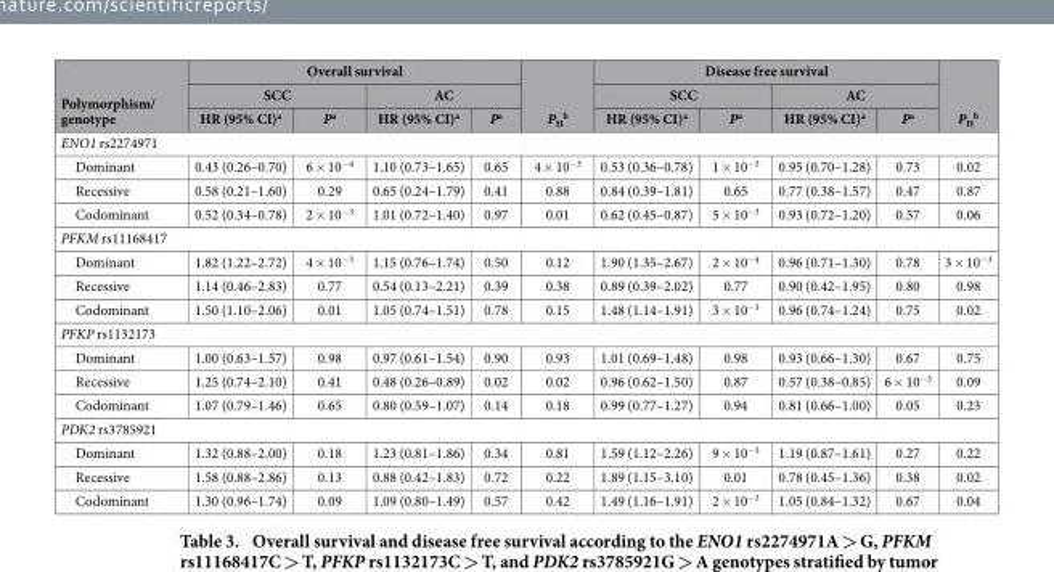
<table><thead><tr><td rowspan="3">Polymorphism/ genotype</td><td colspan="4">Overall survival</td><td rowspan="3">P<sub>H</sub> <sup>b</sup></td><td colspan="4">Disease free survival</td><td rowspan="3">P<sub>H</sub> <sup>b</sup></td></tr><tr><td colspan="2">SCC</td><td colspan="2">AC</td><td colspan="2">SCC</td><td colspan="2">AC</td></tr><tr><td>HR (95% CI)<sup>a</sup></td><td>P<sup>a</sup></td><td>HR (95% CI)<sup>a</sup></td><td>P<sup>a</sup></td><td>HR (95% CI)<sup>a</sup></td><td>P<sup>a</sup></td><td>HR (95% CI)<sup>a</sup></td><td>P<sup>a</sup></td></tr></thead><tbody><tr><td colspan="11">ENO1 rs2274971</td></tr><tr><td>Dominant</td><td>0.43 (0.26–0.70)</td><td>6 × 10<sup>−4</sup></td><td>1.10 (0.73–1.65)</td><td>0.65</td><td>4 × 10<sup>−3</sup></td><td>0.53 (0.36–0.78)</td><td>1 × 10<sup>−3</sup></td><td>0.95 (0.70–1.28)</td><td>0.73</td><td>0.02</td></tr><tr><td>Recessive</td><td>0.58 (0.21–1.60)</td><td>0.29</td><td>0.65 (0.24–1.79)</td><td>0.41</td><td>0.88</td><td>0.84 (0.39–1.81)</td><td>0.65</td><td>0.77 (0.38–1.57)</td><td>0.47</td><td>0.87</td></tr><tr><td>Codominant</td><td>0.52 (0.34–0.78)</td><td>2 × 10<sup>−3</sup></td><td>1.01 (0.72–1.40)</td><td>0.97</td><td>0.01</td><td>0.62 (0.45–0.87)</td><td>5 × 10<sup>−3</sup></td><td>0.93 (0.72–1.20)</td><td>0.57</td><td>0.06</td></tr><tr><td colspan="11">PFKM rs11168417</td></tr><tr><td>Dominant</td><td>1.82 (1.22–2.72)</td><td>4 × 10<sup>−3</sup></td><td>1.15 (0.76–1.74)</td><td>0.50</td><td>0.12</td><td>1.90 (1.35–2.67)</td><td>2 × 10<sup>−4</sup></td><td>0.96 (0.71–1.30)</td><td>0.78</td><td>3 × 10<sup>−3</sup></td></tr><tr><td>Recessive</td><td>1.14 (0.46–2.83)</td><td>0.77</td><td>0.54 (0.13–2.21)</td><td>0.39</td><td>0.38</td><td>0.89 (0.39–2.02)</td><td>0.77</td><td>0.90 (0.42–1.95)</td><td>0.80</td><td>0.98</td></tr><tr><td>Codominant</td><td>1.50 (1.10–2.06)</td><td>0.01</td><td>1.05 (0.74–1.51)</td><td>0.78</td><td>0.15</td><td>1.48 (1.14–1.91)</td><td>3 × 10<sup>−3</sup></td><td>0.96 (0.74–1.24)</td><td>0.75</td><td>0.02</td></tr><tr><td colspan="11">PFKP rs1132173</td></tr><tr><td>Dominant</td><td>1.00 (0.63–1.57)</td><td>0.98</td><td>0.97 (0.61–1.54)</td><td>0.90</td><td>0.93</td><td>1.01 (0.69–1.48)</td><td>0.98</td><td>0.93 (0.66–1.30)</td><td>0.67</td><td>0.75</td></tr><tr><td>Recessive</td><td>1.25 (0.74–2.10)</td><td>0.41</td><td>0.48 (0.26–0.89)</td><td>0.02</td><td>0.02</td><td>0.96 (0.62–1.50)</td><td>0.87</td><td>0.57 (0.38–0.85)</td><td>6 × 10<sup>−3</sup></td><td>0.09</td></tr><tr><td>Codominant</td><td>1.07 (0.79–1.46)</td><td>0.65</td><td>0.80 (0.59–1.07)</td><td>0.14</td><td>0.18</td><td>0.99 (0.77–1.27)</td><td>0.94</td><td>0.81 (0.66–1.00)</td><td>0.05</td><td>0.23</td></tr><tr><td colspan="11">PDK2 rs3785921</td></tr><tr><td>Dominant</td><td>1.32 (0.88–2.00)</td><td>0.18</td><td>1.23 (0.81–1.86)</td><td>0.34</td><td>0.81</td><td>1.59 (1.12–2.26)</td><td>9 × 10<sup>−3</sup></td><td>1.19 (0.87–1.61)</td><td>0.27</td><td>0.22</td></tr><tr><td>Recessive</td><td>1.58 (0.88–2.86)</td><td>0.13</td><td>0.88 (0.42–1.83)</td><td>0.72</td><td>0.22</td><td>1.89 (1.15–3.10)</td><td>0.01</td><td>0.78 (0.45–1.36)</td><td>0.38</td><td>0.02</td></tr><tr><td>Codominant</td><td>1.30 (0.96–1.74)</td><td>0.09</td><td>1.09 (0.80–1.49)</td><td>0.57</td><td>0.42</td><td>1.49 (1.16–1.91)</td><td>2 × 10<sup>−3</sup></td><td>1.05 (0.84–1.32)</td><td>0.67</td><td>0.04</td></tr></tbody></table>